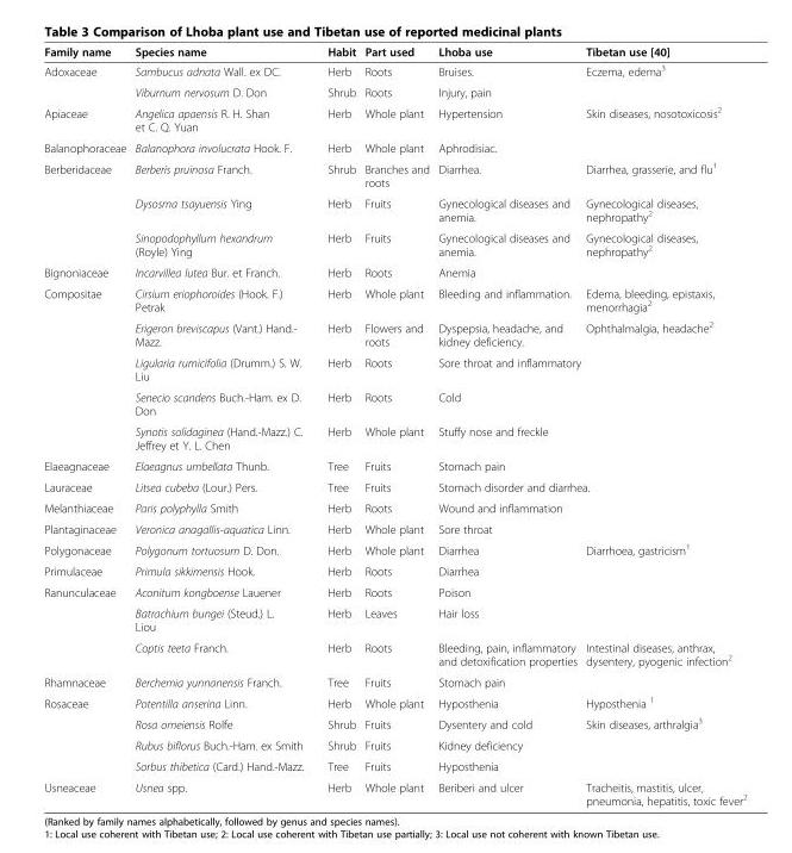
<table><thead><tr><td>Family name</td><td>Species name</td><td>Habit</td><td>Part used</td><td>Lhoba use</td><td>Tibetan use [40]</td></tr></thead><tbody><tr><td rowspan="2">Adoxaceae</td><td>Sambucus adnata Wall. ex DC.</td><td>Herb</td><td>Roots</td><td>Bruises.</td><td>Eczema, edema<sup>3</sup></td></tr><tr><td>Viburnum nervosum D. Don</td><td>Shrub</td><td>Roots</td><td>Injury, pain</td><td></td></tr><tr><td>Apiaceae</td><td>Angelica apaensis R. H. Shan et C. Q. Yuan</td><td>Herb</td><td>Whole plant</td><td>Hypertension</td><td>Skin diseases, nosotoxicosis<sup>2</sup></td></tr><tr><td>Balanophoraceae</td><td>Balanophora involucrata Hook. F.</td><td>Herb</td><td>Whole plant</td><td>Aphrodisiac.</td><td></td></tr><tr><td rowspan="3">Berberidaceae</td><td>Berberis pruinosa Franch.</td><td>Shrub</td><td>Branches and roots</td><td>Diarrhea.</td><td>Diarrhea, grasserie, and flu<sup>1</sup></td></tr><tr><td>Dysosma tsayuensis Ying</td><td>Herb</td><td>Fruits</td><td>Gynecological diseases and anemia.</td><td>Gynecological diseases, nephropathy<sup>2</sup></td></tr><tr><td>Sinopodophyllum hexandrum (Royle) Ying</td><td>Herb</td><td>Fruits</td><td>Gynecological diseases and anemia.</td><td>Gynecological diseases, nephropathy<sup>2</sup></td></tr><tr><td>Bignoniaceae</td><td>Incarvillea lutea Bur. et Franch.</td><td>Herb</td><td>Roots</td><td>Anemia</td><td></td></tr><tr><td rowspan="5">Compositae</td><td>Cirsium eriophoroides (Hook. F.) Petrak</td><td>Herb</td><td>Whole plant</td><td>Bleeding and inflammation.</td><td>Edema, bleeding, epistaxis, menorrhagia<sup>2</sup></td></tr><tr><td>Erigeron breviscapus (Vant.) Hand.- Mazz.</td><td>Herb</td><td>Flowers and roots</td><td>Dyspepsia, headache, and kidney deficiency.</td><td>Ophthalmalgia, headache<sup>2</sup></td></tr><tr><td>Ligularia rumicifolia (Drumm.) S. W. Liu</td><td>Herb</td><td>Roots</td><td colspan="2">Sore throat and inflammatory</td></tr><tr><td>Senecio scandens Buch.-Ham. ex D. Don</td><td>Herb</td><td>Roots</td><td>Cold</td><td></td></tr><tr><td>Synotis solidaginea (Hand.-Mazz.) C. Jeffrey et Y. L. Chen</td><td>Herb</td><td>Whole plant</td><td>Stuffy nose and freckle</td><td></td></tr><tr><td>Elaeagnaceae</td><td>Elaeagnus umbellata Thunb.</td><td>Tree</td><td>Fruits</td><td>Stomach pain</td><td></td></tr><tr><td>Lauraceae</td><td>Litsea cubeba (Lour.) Pers.</td><td>Tree</td><td>Fruits</td><td colspan="2">Stomach disorder and diarrhea.</td></tr><tr><td>Melanthiaceae</td><td>Paris polyphylla Smith</td><td>Herb</td><td>Roots</td><td colspan="2">Wound and inflammation</td></tr><tr><td>Plantaginaceae</td><td>Veronica anagallis-aquatica Linn.</td><td>Herb</td><td>Whole plant</td><td>Sore throat</td><td></td></tr><tr><td>Polygonaceae</td><td>Polygonum tortuosum D. Don.</td><td>Herb</td><td>Whole plant</td><td>Diarrhea</td><td>Diarrhoea, gastricism<sup>1</sup></td></tr><tr><td>Primulaceae</td><td>Primula sikkimensis Hook.</td><td>Herb</td><td>Roots</td><td>Diarrhea</td><td></td></tr><tr><td rowspan="3">Ranunculaceae</td><td>Aconitum kongboense Lauener</td><td>Herb</td><td>Roots</td><td>Poison</td><td></td></tr><tr><td>Batrachium bungei (Steud.) L. Liou</td><td>Herb</td><td>Leaves</td><td>Hair loss</td><td></td></tr><tr><td>Coptis teeta Franch.</td><td>Herb</td><td>Roots</td><td>Bleeding, pain, inflammatory and detoxification properties</td><td>Intestinal diseases, anthrax, dysentery, pyogenic infection<sup>2</sup></td></tr><tr><td>Rhamnaceae</td><td>Berchemia yunnanensis Franch.</td><td>Tree</td><td>Fruits</td><td>Stomach pain</td><td></td></tr><tr><td rowspan="4">Rosaceae</td><td>Potentilla anserina Linn.</td><td>Herb</td><td>Whole plant</td><td>Hyposthenia</td><td>Hyposthenia <sup>1</sup></td></tr><tr><td>Rosa omeiensis Rolfe</td><td>Shrub</td><td>Fruits</td><td>Dysentery and cold</td><td>Skin diseases, arthralgia<sup>3</sup></td></tr><tr><td>Rubus biflorus Buch.-Ham. ex Smith</td><td>Shrub</td><td>Fruits</td><td>Kidney deficiency</td><td></td></tr><tr><td>Sorbus thibetica (Card.) Hand.-Mazz.</td><td>Tree</td><td>Fruits</td><td>Hyposthenia</td><td></td></tr><tr><td>Usneaceae</td><td>Usnea spp.</td><td>Herb</td><td>Whole plant</td><td>Beriberi and ulcer</td><td>Tracheitis, mastitis, ulcer, pneumonia, hepatitis, toxic fever<sup>2</sup></td></tr></tbody></table>